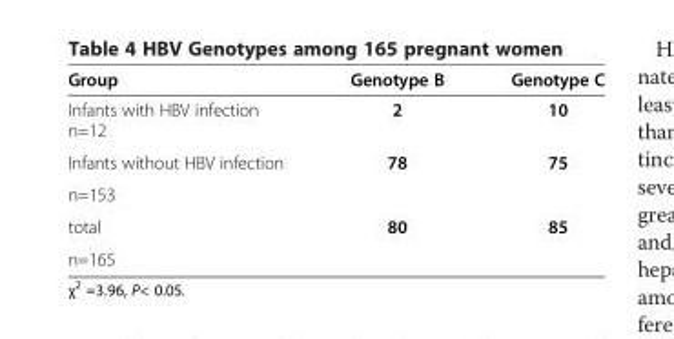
<table><thead><tr><td rowspan="2">Group Infants with HBV infection</td><td rowspan="2">Genotype B 2</td><td rowspan="2">Genotype C 10</td></tr><tr></tr></thead><tbody><tr><td colspan="3">n=12</td></tr><tr><td>Infants without HBV infection</td><td>78</td><td>75</td></tr><tr><td colspan="3">n=153</td></tr><tr><td>total</td><td>80</td><td>85</td></tr><tr><td>n=165</td><td></td><td></td></tr></tbody></table>